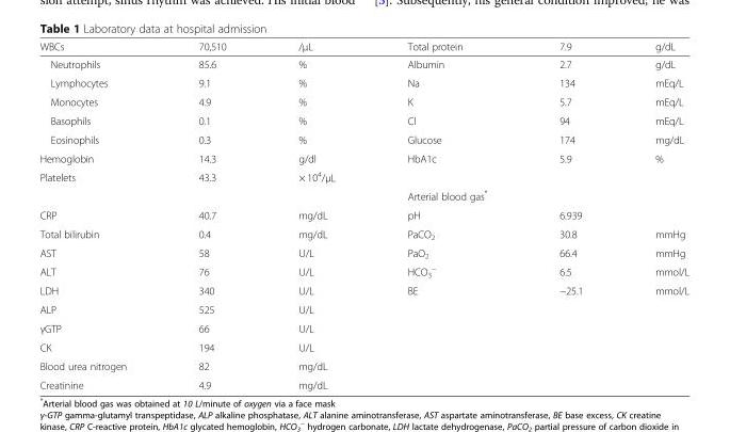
<table><thead><tr><td>WBCs</td><td>70,510</td><td>/μL</td><td>Total protein</td><td>7.9</td><td>g/dL</td></tr></thead><tbody><tr><td>Neutrophils</td><td>85.6</td><td>%</td><td>Albumin</td><td>2.7</td><td>g/dL</td></tr><tr><td>Lymphocytes</td><td>9.1</td><td>%</td><td>Na</td><td>134</td><td>mEq/L</td></tr><tr><td>Monocytes</td><td>4.9</td><td>%</td><td>K</td><td>5.7</td><td>mEq/L</td></tr><tr><td>Basophils</td><td>0.1</td><td>%</td><td>Cl</td><td>94</td><td>mEq/L</td></tr><tr><td>Eosinophils</td><td>0.3</td><td>%</td><td>Glucose</td><td>174</td><td>mg/dL</td></tr><tr><td>Hemoglobin</td><td>14.3</td><td>g/dl</td><td>HbA1c</td><td>5.9</td><td>%</td></tr><tr><td rowspan="2">Platelets</td><td>43.3</td><td>× 10<sup>4</sup>/μL</td><td></td><td></td><td></td></tr><tr><td></td><td></td><td>Arterial blood gas*</td><td></td><td></td></tr><tr><td>CRP</td><td>40.7</td><td>mg/dL</td><td>pH</td><td>6.939</td><td></td></tr><tr><td>Total bilirubin</td><td>0.4</td><td>mg/dL</td><td>PaCO<sub>2</sub></td><td>30.8</td><td>mmHg</td></tr><tr><td>AST</td><td>58</td><td>U/L</td><td>PaO<sub>2</sub></td><td>66.4</td><td>mmHg</td></tr><tr><td>ALT</td><td>76</td><td>U/L</td><td>HCO<sub>3</sub> <sup>−</sup></td><td>6.5</td><td>mmol/L</td></tr><tr><td>LDH</td><td>340</td><td>U/L</td><td>BE</td><td>−25.1</td><td>mmol/L</td></tr><tr><td>ALP</td><td>525</td><td>U/L</td><td></td><td></td><td></td></tr><tr><td>γGTP</td><td>66</td><td>U/L</td><td></td><td></td><td></td></tr><tr><td>CK</td><td>194</td><td>U/L</td><td></td><td></td><td></td></tr><tr><td>Blood urea nitrogen</td><td>82</td><td>mg/dL</td><td></td><td></td><td></td></tr><tr><td>Creatinine</td><td>4.9</td><td>mg/dL</td><td></td><td></td><td></td></tr></tbody></table>